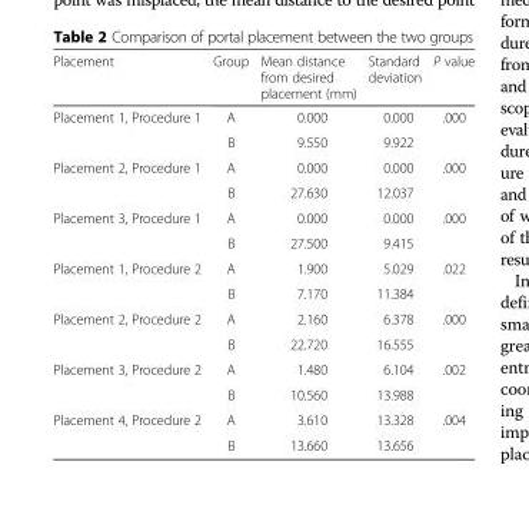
<table><thead><tr><td>Placement</td><td>Group</td><td>Mean distance from desired placement (mm)</td><td>Standard deviation</td><td>P value</td></tr></thead><tbody><tr><td rowspan="2">Placement 1, Procedure 1</td><td>A</td><td>0.000</td><td>0.000</td><td>.000</td></tr><tr><td>B</td><td>9.550</td><td>9.922</td><td></td></tr><tr><td rowspan="2">Placement 2, Procedure 1</td><td>A</td><td>0.000</td><td>0.000</td><td>.000</td></tr><tr><td>B</td><td>27.630</td><td>12.037</td><td></td></tr><tr><td rowspan="2">Placement 3, Procedure 1</td><td>A</td><td>0.000</td><td>0.000</td><td>.000</td></tr><tr><td>B</td><td>27.500</td><td>9.415</td><td></td></tr><tr><td rowspan="2">Placement 1, Procedure 2</td><td>A</td><td>1.900</td><td>5.029</td><td>.022</td></tr><tr><td>B</td><td>7.170</td><td>11.384</td><td></td></tr><tr><td rowspan="2">Placement 2, Procedure 2</td><td>A</td><td>2.160</td><td>6.378</td><td>.000</td></tr><tr><td>B</td><td>22.720</td><td>16.555</td><td></td></tr><tr><td rowspan="2">Placement 3, Procedure 2</td><td>A</td><td>1.480</td><td>6.104</td><td>.002</td></tr><tr><td>B</td><td>10.560</td><td>13.988</td><td></td></tr><tr><td rowspan="2">Placement 4, Procedure 2</td><td>A</td><td>3.610</td><td>13.328</td><td>.004</td></tr><tr><td>B</td><td>13.660</td><td>13.656</td><td></td></tr></tbody></table>